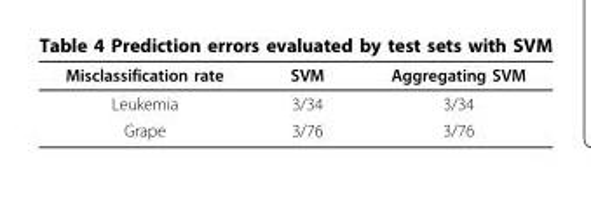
<table><thead><tr><td>Misclassification rate</td><td>SVM</td><td>Aggregating SVM</td></tr></thead><tbody><tr><td>Leukemia</td><td>3/34</td><td>3/34</td></tr><tr><td>Grape</td><td>3/76</td><td>3/76</td></tr></tbody></table>